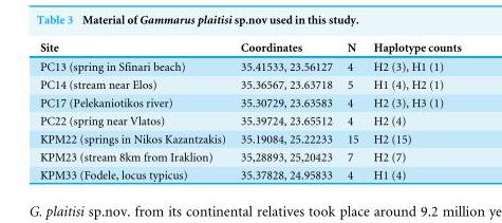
<table><thead><tr><td>Site</td><td>Coordinates</td><td>N</td><td>Haplotype counts</td></tr></thead><tbody><tr><td>PC13 (spring in Sfinari beach)</td><td>35.41533, 23.56127</td><td>4</td><td>H2 (3), H1 (1)</td></tr><tr><td>PC14 (stream near Elos)</td><td>35.36567, 23.63718</td><td>5</td><td>H1 (4), H2 (1)</td></tr><tr><td>PC17 (Pelekaniotikos river)</td><td>35.30729, 23.63583</td><td>4</td><td>H2 (3), H3 (1)</td></tr><tr><td>PC22 (spring near Vlatos)</td><td>35.39724, 23.65512</td><td>4</td><td>H2 (4)</td></tr><tr><td>KPM22 (springs in Nikos Kazantzakis)</td><td>35.19084, 25.22233</td><td>15</td><td>H2 (15)</td></tr><tr><td>KPM23 (stream 8km from Iraklion)</td><td>35,28893, 25,20423</td><td>7</td><td>H2 (7)</td></tr><tr><td>KPM33 (Fodele, locus typicus)</td><td>35.37828, 24.95833</td><td>4</td><td>H1 (4)</td></tr></tbody></table>